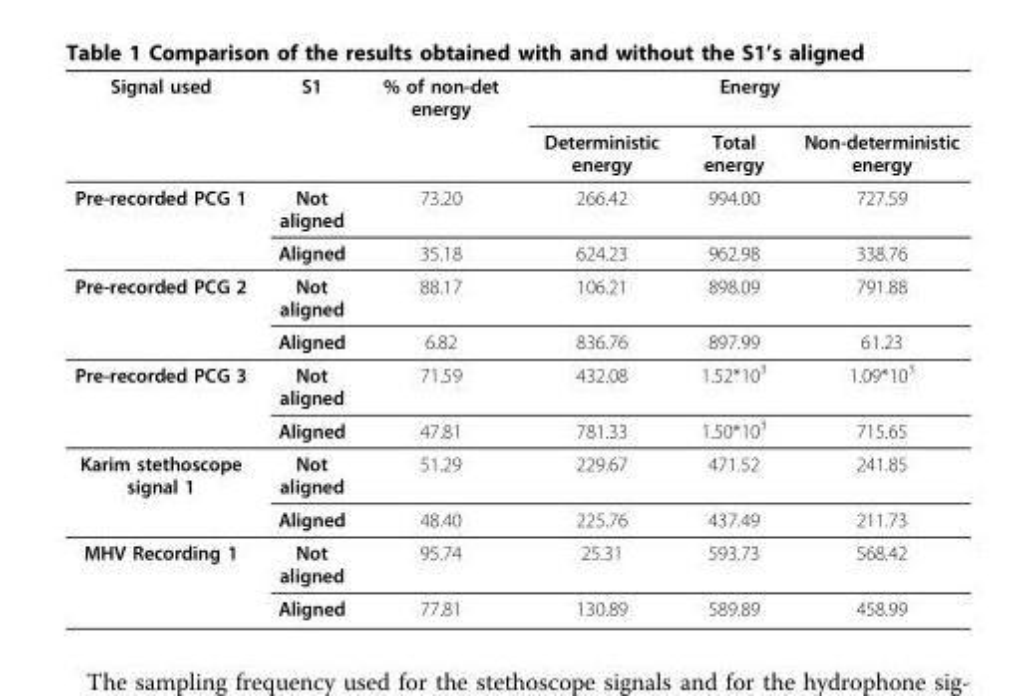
<table><thead><tr><td rowspan="2">Signal used</td><td rowspan="2">S1</td><td rowspan="2">% of non-det energy</td><td colspan="3">Energy</td></tr><tr><td>Deterministic energy</td><td>Total energy</td><td>Non-deterministic energy</td></tr></thead><tbody><tr><td rowspan="2">Pre-recorded PCG 1</td><td>Not aligned</td><td>73.20</td><td>266.42</td><td>994.00</td><td>727.59</td></tr><tr><td>Aligned</td><td>35.18</td><td>624.23</td><td>962.98</td><td>338.76</td></tr><tr><td rowspan="2">Pre-recorded PCG 2</td><td>Not aligned</td><td>88.17</td><td>106.21</td><td>898.09</td><td>791.88</td></tr><tr><td>Aligned</td><td>6.82</td><td>836.76</td><td>897.99</td><td>61.23</td></tr><tr><td rowspan="2">Pre-recorded PCG 3</td><td>Not aligned</td><td>71.59</td><td>432.08</td><td>1.52*10<sup>3</sup></td><td>1.09*10<sup>3</sup></td></tr><tr><td>Aligned</td><td>47.81</td><td>781.33</td><td>1.50*10<sup>3</sup></td><td>715.65</td></tr><tr><td rowspan="2">Karim stethoscope signal 1</td><td>Not aligned</td><td>51.29</td><td>229.67</td><td>471.52</td><td>241.85</td></tr><tr><td>Aligned</td><td>48.40</td><td>225.76</td><td>437.49</td><td>211.73</td></tr><tr><td rowspan="2">MHV Recording 1</td><td>Not aligned</td><td>95.74</td><td>25.31</td><td>593.73</td><td>568.42</td></tr><tr><td>Aligned</td><td>77.81</td><td>130.89</td><td>589.89</td><td>458.99</td></tr></tbody></table>